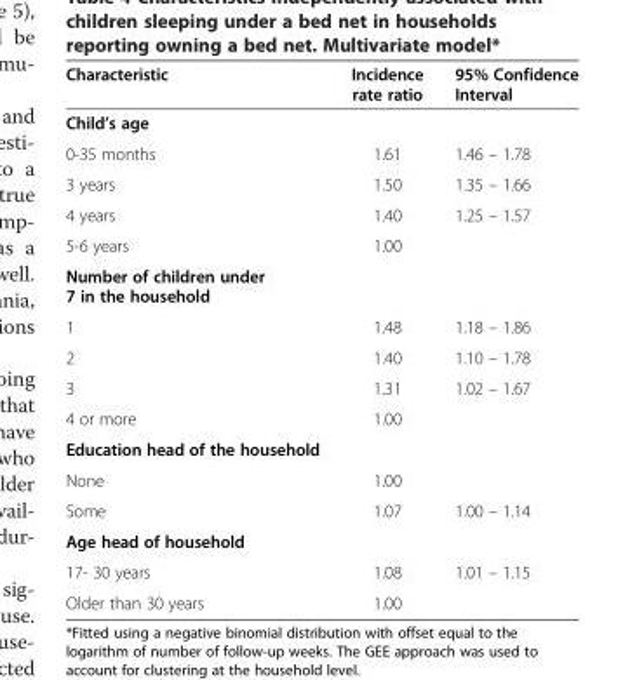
<table><thead><tr><td>Characteristic</td><td>Incidence rate ratio</td><td>95% Confidence Interval</td></tr></thead><tbody><tr><td colspan="3">Child’s age</td></tr><tr><td>0-35 months</td><td>1.61</td><td>1.46 – 1.78</td></tr><tr><td>3 years</td><td>1.50</td><td>1.35 – 1.66</td></tr><tr><td>4 years</td><td>1.40</td><td>1.25 – 1.57</td></tr><tr><td>5-6 years</td><td>1.00</td><td></td></tr><tr><td colspan="3">Number of children under 7 in the household</td></tr><tr><td>1</td><td>1.48</td><td>1.18 – 1.86</td></tr><tr><td>2</td><td>1.40</td><td>1.10 – 1.78</td></tr><tr><td>3</td><td>1.31</td><td>1.02 – 1.67</td></tr><tr><td>4 or more</td><td>1.00</td><td></td></tr><tr><td colspan="3">Education head of the household</td></tr><tr><td>None</td><td>1.00</td><td></td></tr><tr><td>Some</td><td>1.07</td><td>1.00 – 1.14</td></tr><tr><td colspan="3">Age head of household</td></tr><tr><td>17- 30 years</td><td>1.08</td><td>1.01 – 1.15</td></tr><tr><td>Older than 30 years</td><td>1.00</td><td></td></tr></tbody></table>